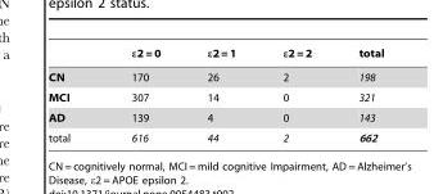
<table><thead><tr><td></td><td>ε2 = 0</td><td>ε2 = 1</td><td>ε2 = 2</td><td>total</td></tr></thead><tbody><tr><td>CN</td><td>170</td><td>26</td><td>2</td><td>198</td></tr><tr><td>MCI</td><td>307</td><td>14</td><td>0</td><td>321</td></tr><tr><td>AD</td><td>139</td><td>4</td><td>0</td><td>143</td></tr><tr><td>total</td><td>616</td><td>44</td><td>2</td><td>662</td></tr></tbody></table>